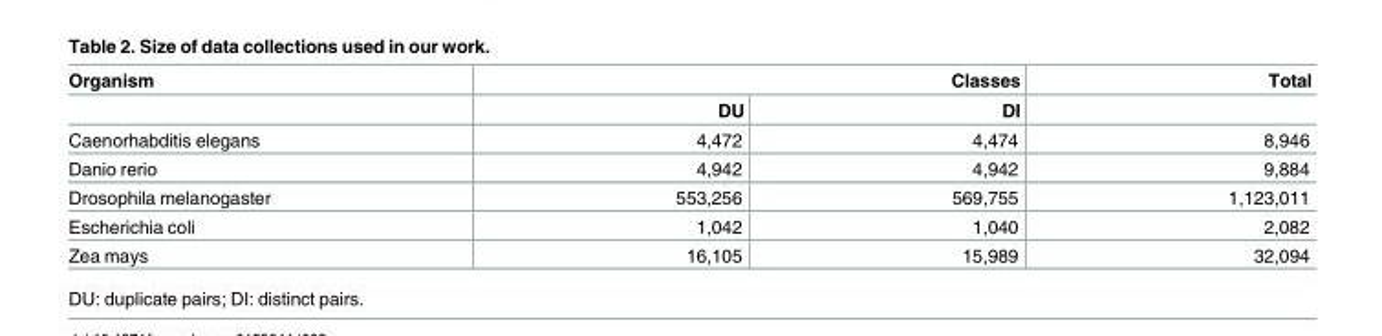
<table><thead><tr><td rowspan="2">Organism</td><td colspan="2">Classes</td><td rowspan="2">Total</td></tr><tr><td>DU</td><td>DI</td></tr></thead><tbody><tr><td>Caenorhabditis elegans</td><td>4,472</td><td>4,474</td><td>8,946</td></tr><tr><td>Danio rerio</td><td>4,942</td><td>4,942</td><td>9,884</td></tr><tr><td>Drosophila melanogaster</td><td>553,256</td><td>569,755</td><td>1,123,011</td></tr><tr><td>Escherichia coli</td><td>1,042</td><td>1,040</td><td>2,082</td></tr><tr><td>Zea mays</td><td>16,105</td><td>15,989</td><td>32,094</td></tr></tbody></table>